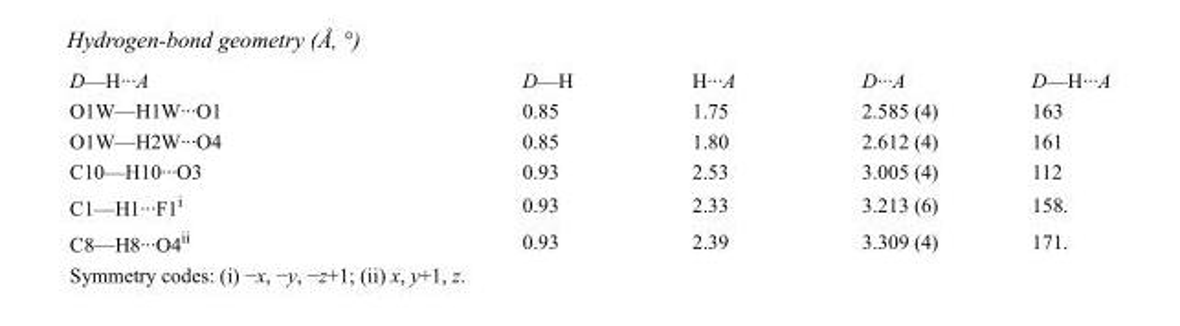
<table><tbody><tr><td>D—H···A</td><td>D—H</td><td>H···A</td><td>D···A</td><td>D—H···A</td></tr><tr><td>O1W—H1W···O1</td><td>0.85</td><td>1.75</td><td>2.585 (4)</td><td>163</td></tr><tr><td>O1W—H2W···O4</td><td>0.85</td><td>1.80</td><td>2.612 (4)</td><td>161</td></tr><tr><td>C10—H10···O3</td><td>0.93</td><td>2.53</td><td>3.005 (4)</td><td>112</td></tr><tr><td>C1—H1···F1<sup>i</sup></td><td>0.93</td><td>2.33</td><td>3.213 (6)</td><td>158.</td></tr><tr><td>C8—H8···O4<sup>ii</sup></td><td>0.93</td><td>2.39</td><td>3.309 (4)</td><td>171.</td></tr></tbody></table>